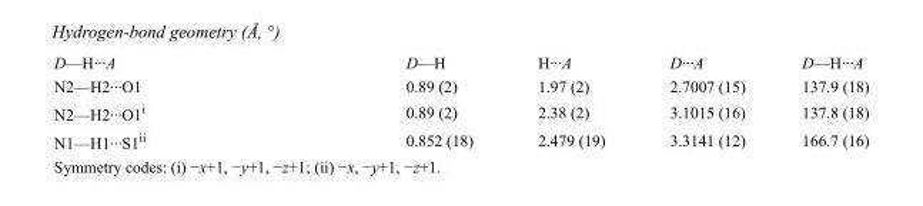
<table><tbody><tr><td>D—H···A</td><td>D—H</td><td>H···A</td><td>D···A</td><td>D—H···A</td></tr><tr><td>N2—H2···O1</td><td>0.89 (2)</td><td>1.97 (2)</td><td>2.7007 (15)</td><td>137.9 (18)</td></tr><tr><td>N2—H2···O1<sup>i</sup></td><td>0.89 (2)</td><td>2.38 (2)</td><td>3.1015 (16)</td><td>137.8 (18)</td></tr><tr><td>N1—H1···S1<sup>ii</sup></td><td>0.852 (18)</td><td>2.479 (19)</td><td>3.3141 (12)</td><td>166.7 (16)</td></tr></tbody></table>